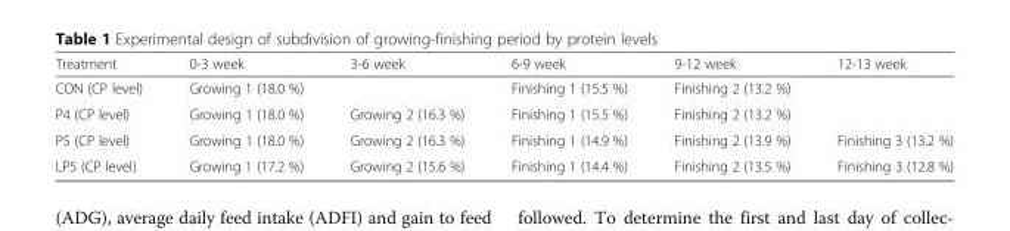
<table><thead><tr><td>Treatment</td><td>0-3 week</td><td>3-6 week</td><td>6-9 week</td><td>9-12 week</td><td>12-13 week</td></tr></thead><tbody><tr><td>CON (CP level)</td><td colspan="2">Growing 1 (18.0 %)</td><td>Finishing 1 (15.5 %)</td><td colspan="2">Finishing 2 (13.2 %)</td></tr><tr><td>P4 (CP level)</td><td>Growing 1 (18.0 %)</td><td>Growing 2 (16.3 %)</td><td>Finishing 1 (15.5 %)</td><td colspan="2">Finishing 2 (13.2 %)</td></tr><tr><td>P5 (CP level)</td><td>Growing 1 (18.0 %)</td><td>Growing 2 (16.3 %)</td><td>Finishing 1 (14.9 %)</td><td>Finishing 2 (13.9 %)</td><td>Finishing 3 (13.2 %)</td></tr><tr><td>LP5 (CP level)</td><td>Growing 1 (17.2 %)</td><td>Growing 2 (15.6 %)</td><td>Finishing 1 (14.4 %)</td><td>Finishing 2 (13.5 %)</td><td>Finishing 3 (12.8 %)</td></tr></tbody></table>